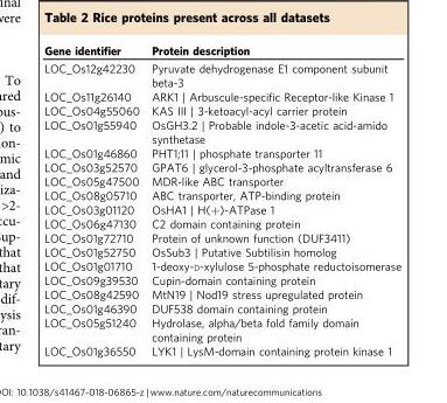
<table><thead><tr><td>Gene identifier</td><td>Protein description</td></tr></thead><tbody><tr><td>LOC_Os12g42230</td><td>Pyruvate dehydrogenase E1 component subunit beta-3</td></tr><tr><td>LOC_Os11g26140</td><td>ARK1 | Arbuscule-specific Receptor-like Kinase 1</td></tr><tr><td>LOC_Os04g55060</td><td>KAS III | 3-ketoacyl-acyl carrier protein</td></tr><tr><td>LOC_Os01g55940</td><td>OsGH3.2 | Probable indole-3-acetic acid-amido synthetase</td></tr><tr><td>LOC_Os01g46860</td><td>PHT1;11 | phosphate transporter 11</td></tr><tr><td>LOC_Os03g52570</td><td>GPAT6 | glycerol-3-phosphate acyltransferase 6</td></tr><tr><td>LOC_Os05g47500</td><td>MDR-like ABC transporter</td></tr><tr><td>LOC_Os08g05710</td><td>ABC transporter, ATP-binding protein</td></tr><tr><td>LOC_Os03g01120</td><td>OsHA1 | H(+)-ATPase 1</td></tr><tr><td>LOC_Os06g47130</td><td>C2 domain containing protein</td></tr><tr><td>LOC_Os01g72710</td><td>Protein of unknown function (DUF3411)</td></tr><tr><td>LOC_Os01g52750</td><td>OsSub3 | Putative Subtilisin homolog</td></tr><tr><td>LOC_Os01g01710</td><td>1-deoxy-D-xylulose 5-phosphate reductoisomerase</td></tr><tr><td>LOC_Os09g39530</td><td>Cupin-domain containing protein</td></tr><tr><td>LOC_Os08g42590</td><td>MtN19 | Nod19 stress upregulated protein</td></tr><tr><td>LOC_Os01g46390</td><td>DUF538 domain containing protein</td></tr><tr><td>LOC_Os05g51240</td><td>Hydrolase, alpha/beta fold family domain containing protein</td></tr><tr><td>LOC_Os01g36550</td><td>LYK1 | LysM-domain containing protein kinase 1</td></tr></tbody></table>